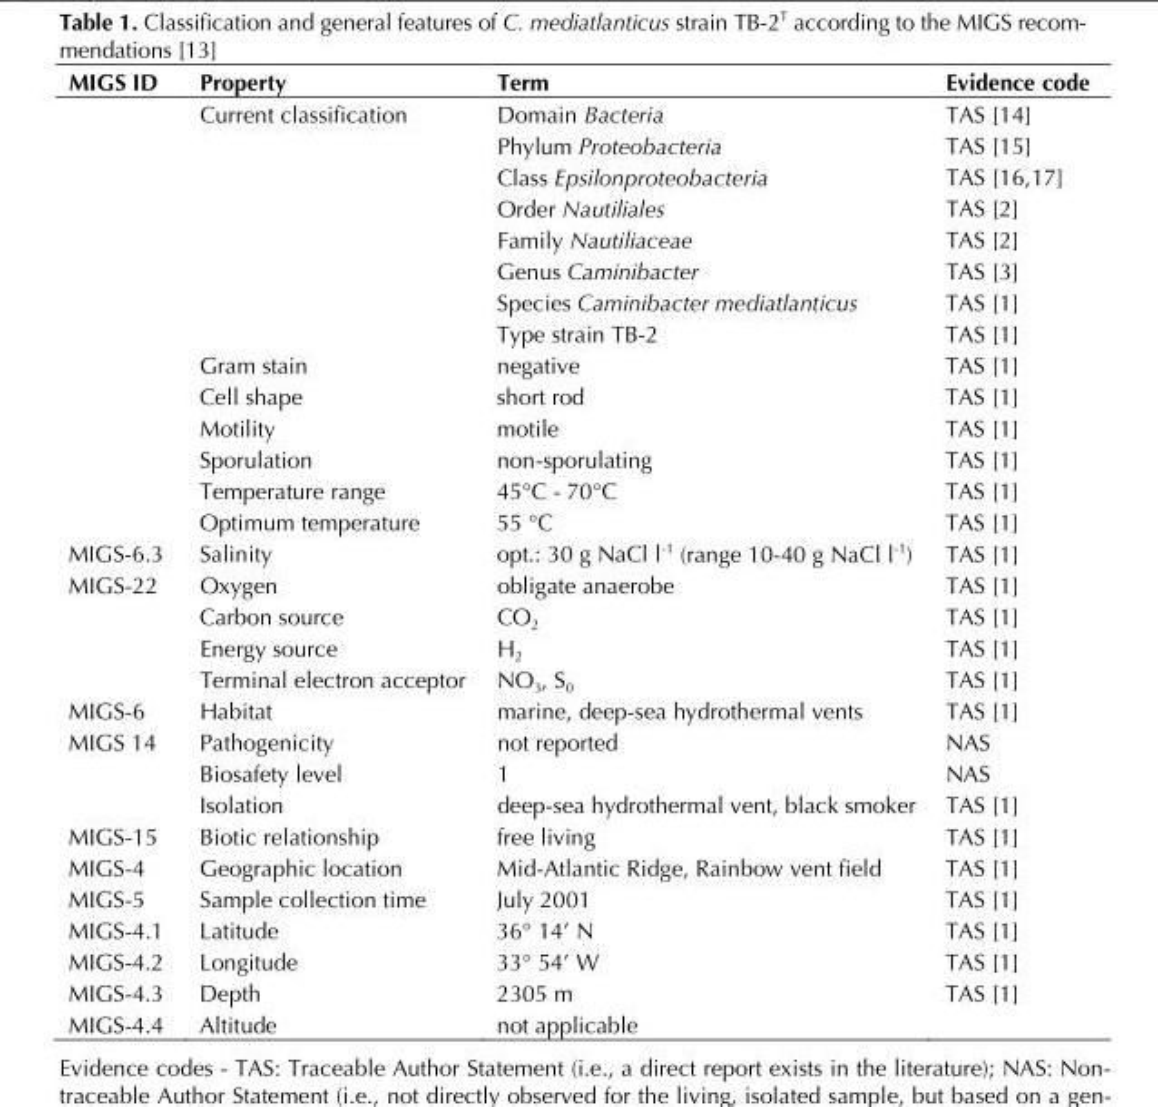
<table><thead><tr><td>MIGS ID</td><td>Property</td><td>Term</td><td>Evidence code</td></tr></thead><tbody><tr><td></td><td>Current classification</td><td>Domain Bacteria</td><td>TAS [14]</td></tr><tr><td></td><td></td><td>Phylum Proteobacteria</td><td>TAS [15]</td></tr><tr><td></td><td></td><td>Class Epsilonproteobacteria</td><td>TAS [16,17]</td></tr><tr><td></td><td></td><td>Order Nautiliales</td><td>TAS [2]</td></tr><tr><td></td><td></td><td>Family Nautiliaceae</td><td>TAS [2]</td></tr><tr><td></td><td></td><td>Genus Caminibacter</td><td>TAS [3]</td></tr><tr><td></td><td></td><td>Species Caminibacter mediatlanticus</td><td>TAS [1]</td></tr><tr><td></td><td></td><td>Type strain TB-2</td><td>TAS [1]</td></tr><tr><td></td><td>Gram stain</td><td>negative</td><td>TAS [1]</td></tr><tr><td></td><td>Cell shape</td><td>short rod</td><td>TAS [1]</td></tr><tr><td></td><td>Motility</td><td>motile</td><td>TAS [1]</td></tr><tr><td></td><td>Sporulation</td><td>non-sporulating</td><td>TAS [1]</td></tr><tr><td></td><td>Temperature range</td><td>45°C - 70°C</td><td>TAS [1]</td></tr><tr><td></td><td>Optimum temperature</td><td>55 °C</td><td>TAS [1]</td></tr><tr><td>MIGS-6.3</td><td>Salinity</td><td>opt.: 30 g NaCl l<sup>-1</sup> (range 10-40 g NaCl l<sup>-1</sup>)</td><td>TAS [1]</td></tr><tr><td rowspan="4">MIGS-22</td><td>Oxygen</td><td>obligate anaerobe</td><td>TAS [1]</td></tr><tr><td>Carbon source</td><td>CO<sub>2</sub></td><td>TAS [1]</td></tr><tr><td>Energy source</td><td>H<sub>2</sub></td><td>TAS [1]</td></tr><tr><td>Terminal electron acceptor</td><td>NO<sub>3</sub>, S<sub>0</sub></td><td>TAS [1]</td></tr><tr><td>MIGS-6</td><td>Habitat</td><td>marine, deep-sea hydrothermal vents</td><td>TAS [1]</td></tr><tr><td rowspan="3">MIGS 14</td><td>Pathogenicity</td><td>not reported</td><td>NAS</td></tr><tr><td>Biosafety level</td><td>1</td><td>NAS</td></tr><tr><td>Isolation</td><td>deep-sea hydrothermal vent, black smoker</td><td>TAS [1]</td></tr><tr><td>MIGS-15</td><td>Biotic relationship</td><td>free living</td><td>TAS [1]</td></tr><tr><td>MIGS-4</td><td>Geographic location</td><td>Mid-Atlantic Ridge, Rainbow vent field</td><td>TAS [1]</td></tr><tr><td>MIGS-5</td><td>Sample collection time</td><td>July 2001</td><td>TAS [1]</td></tr><tr><td>MIGS-4.1</td><td>Latitude</td><td>36° 14’ N</td><td>TAS [1]</td></tr><tr><td>MIGS-4.2</td><td>Longitude</td><td>33° 54’ W</td><td>TAS [1]</td></tr><tr><td>MIGS-4.3</td><td>Depth</td><td>2305 m</td><td>TAS [1]</td></tr><tr><td>MIGS-4.4</td><td>Altitude</td><td>not applicable</td><td></td></tr></tbody></table>